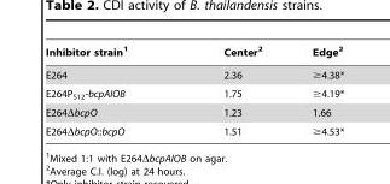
<table><thead><tr><td>Inhibitor strain<sup>1</sup></td><td>Center<sup>2</sup></td><td>Edge<sup>2</sup></td></tr></thead><tbody><tr><td>E264</td><td>2.36</td><td>≥4.38*</td></tr><tr><td>E264P<sub>S12</sub>-bcpAIOB</td><td>1.75</td><td>≥4.19*</td></tr><tr><td>E264ΔbcpO</td><td>1.23</td><td>1.66</td></tr><tr><td>E264ΔbcpO::bcpO</td><td>1.51</td><td>≥4.53*</td></tr></tbody></table>